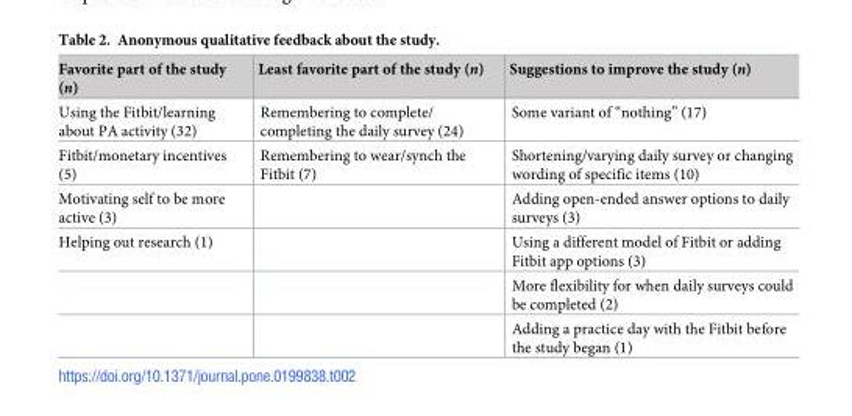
<table><thead><tr><td>Favorite part of the study (n)</td><td>Least favorite part of the study (n)</td><td>Suggestions to improve the study (n)</td></tr></thead><tbody><tr><td>Using the Fitbit/learning about PA activity (32)</td><td>Remembering to complete/ completing the daily survey (24)</td><td>Some variant of “nothing” (17)</td></tr><tr><td>Fitbit/monetary incentives (5)</td><td>Remembering to wear/synch the Fitbit (7)</td><td>Shortening/varying daily survey or changing wording of specific items (10)</td></tr><tr><td>Motivating self to be more active (3)</td><td></td><td>Adding open-ended answer options to daily surveys (3)</td></tr><tr><td rowspan="3">Helping out research (1)</td><td></td><td>Using a different model of Fitbit or adding Fitbit app options (3)</td></tr><tr><td></td><td>More flexibility for when daily surveys could be completed (2)</td></tr><tr><td></td><td>Adding a practice day with the Fitbit before the study began (1)</td></tr></tbody></table>